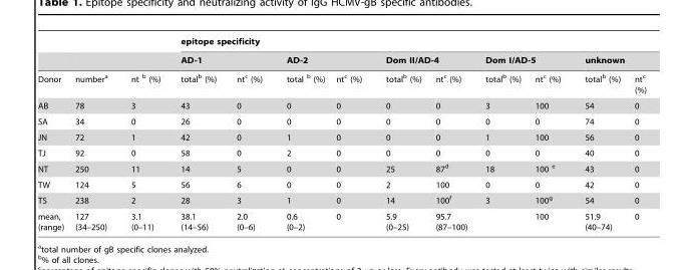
<table><thead><tr><td rowspan="3">Donor</td><td rowspan="3">number<sup>a</sup></td><td rowspan="3">nt b (%)</td><td colspan="10">epitope specificity</td></tr><tr><td colspan="2">AD-1</td><td colspan="2">AD-2</td><td colspan="2">Dom II/AD-4</td><td colspan="2">Dom I/AD-5</td><td colspan="2">unknown</td></tr><tr><td>totalb (%)</td><td>nt<sup>c</sup> (%)</td><td>total b (%)</td><td>nt<sup>c</sup> (%)</td><td>total<sup>b</sup> (%)</td><td>nt<sup>c</sup> (%)</td><td>total<sup>b</sup> (%)</td><td>nt<sup>c</sup> (%)</td><td>total<sup>b</sup> (%)</td><td>nt<sup>c</sup> (%)</td></tr></thead><tbody><tr><td>AB</td><td>78</td><td>3</td><td>43</td><td>0</td><td>0</td><td>0</td><td>0</td><td>0</td><td>3</td><td>100</td><td>54</td><td>0</td></tr><tr><td>SA</td><td>34</td><td>0</td><td>26</td><td>0</td><td>0</td><td>0</td><td>0</td><td>0</td><td>0</td><td>0</td><td>74</td><td>0</td></tr><tr><td>JN</td><td>72</td><td>1</td><td>42</td><td>0</td><td>1</td><td>0</td><td>0</td><td>0</td><td>1</td><td>100</td><td>56</td><td>0</td></tr><tr><td>TJ</td><td>92</td><td>0</td><td>58</td><td>0</td><td>2</td><td>0</td><td>0</td><td>0</td><td>0</td><td>0</td><td>40</td><td>0</td></tr><tr><td>NT</td><td>250</td><td>11</td><td>14</td><td>5</td><td>0</td><td>0</td><td>25</td><td>87<sup>d</sup></td><td>18</td><td>100 e</td><td>43</td><td>0</td></tr><tr><td>TW</td><td>124</td><td>5</td><td>56</td><td>6</td><td>0</td><td>0</td><td>2</td><td>100</td><td>0</td><td>0</td><td>42</td><td>0</td></tr><tr><td>TS</td><td>238</td><td>2</td><td>28</td><td>3</td><td>1</td><td>0</td><td>14</td><td>100<sup>f</sup></td><td>3</td><td>100<sup>g</sup></td><td>54</td><td>0</td></tr><tr><td>mean, (range)</td><td>127 (34–250)</td><td>3.1 (0–11)</td><td>38.1 (14–56)</td><td>2.0 (0–6)</td><td>0.6 (0–2)</td><td>0</td><td>5.9 (0–25)</td><td>95.7 (87–100)</td><td></td><td>100</td><td>51.9 (40–74)</td><td>0</td></tr></tbody></table>